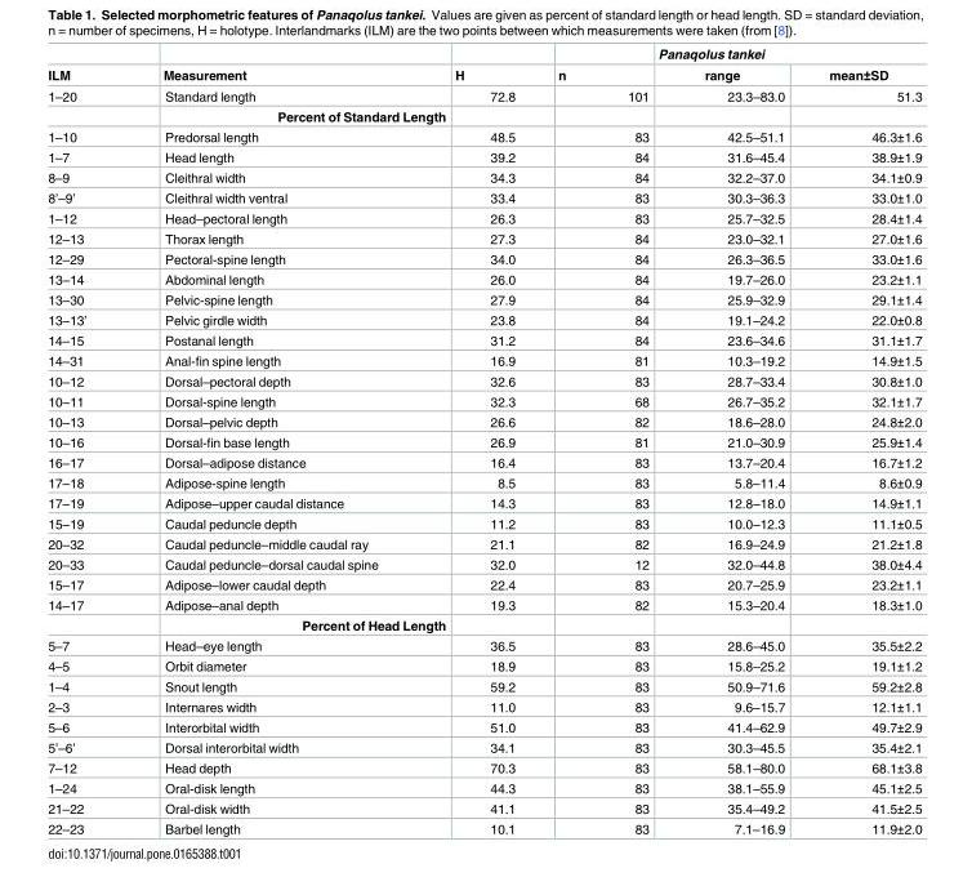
<table><thead><tr><td rowspan="2">ILM</td><td rowspan="2">Measurement</td><td rowspan="2">H</td><td rowspan="2">n</td><td colspan="2">Panaqolus tankei</td></tr><tr><td>range</td><td>mean±SD</td></tr></thead><tbody><tr><td rowspan="2">1–20</td><td>Standard length</td><td>72.8</td><td>101</td><td>23.3–83.0</td><td>51.3</td></tr><tr><td>Percent of Standard Length</td><td></td><td></td><td></td><td></td></tr><tr><td>1–10</td><td>Predorsal length</td><td>48.5</td><td>83</td><td>42.5–51.1</td><td>46.3±1.6</td></tr><tr><td>1–7</td><td>Head length</td><td>39.2</td><td>84</td><td>31.6–45.4</td><td>38.9±1.9</td></tr><tr><td>8–9</td><td>Cleithral width</td><td>34.3</td><td>84</td><td>32.2–37.0</td><td>34.1±0.9</td></tr><tr><td>8’–9’</td><td>Cleithral width ventral</td><td>33.4</td><td>83</td><td>30.3–36.3</td><td>33.0±1.0</td></tr><tr><td>1–12</td><td>Head–pectoral length</td><td>26.3</td><td>83</td><td>25.7–32.5</td><td>28.4±1.4</td></tr><tr><td>12–13</td><td>Thorax length</td><td>27.3</td><td>84</td><td>23.0–32.1</td><td>27.0±1.6</td></tr><tr><td>12–29</td><td>Pectoral-spine length</td><td>34.0</td><td>84</td><td>26.3–36.5</td><td>33.0±1.6</td></tr><tr><td>13–14</td><td>Abdominal length</td><td>26.0</td><td>84</td><td>19.7–26.0</td><td>23.2±1.1</td></tr><tr><td>13–30</td><td>Pelvic-spine length</td><td>27.9</td><td>84</td><td>25.9–32.9</td><td>29.1±1.4</td></tr><tr><td>13–13’</td><td>Pelvic girdle width</td><td>23.8</td><td>84</td><td>19.1–24.2</td><td>22.0±0.8</td></tr><tr><td>14–15</td><td>Postanal length</td><td>31.2</td><td>84</td><td>23.6–34.6</td><td>31.1±1.7</td></tr><tr><td>14–31</td><td>Anal-fin spine length</td><td>16.9</td><td>81</td><td>10.3–19.2</td><td>14.9±1.5</td></tr><tr><td>10–12</td><td>Dorsal–pectoral depth</td><td>32.6</td><td>83</td><td>28.7–33.4</td><td>30.8±1.0</td></tr><tr><td>10–11</td><td>Dorsal-spine length</td><td>32.3</td><td>68</td><td>26.7–35.2</td><td>32.1±1.7</td></tr><tr><td>10–13</td><td>Dorsal–pelvic depth</td><td>26.6</td><td>82</td><td>18.6–28.0</td><td>24.8±2.0</td></tr><tr><td>10–16</td><td>Dorsal-fin base length</td><td>26.9</td><td>81</td><td>21.0–30.9</td><td>25.9±1.4</td></tr><tr><td>16–17</td><td>Dorsal–adipose distance</td><td>16.4</td><td>83</td><td>13.7–20.4</td><td>16.7±1.2</td></tr><tr><td>17–18</td><td>Adipose-spine length</td><td>8.5</td><td>83</td><td>5.8–11.4</td><td>8.6±0.9</td></tr><tr><td>17–19</td><td>Adipose–upper caudal distance</td><td>14.3</td><td>83</td><td>12.8–18.0</td><td>14.9±1.1</td></tr><tr><td>15–19</td><td>Caudal peduncle depth</td><td>11.2</td><td>83</td><td>10.0–12.3</td><td>11.1±0.5</td></tr><tr><td>20–32</td><td>Caudal peduncle–middle caudal ray</td><td>21.1</td><td>82</td><td>16.9–24.9</td><td>21.2±1.8</td></tr><tr><td>20–33</td><td>Caudal peduncle–dorsal caudal spine</td><td>32.0</td><td>12</td><td>32.0–44.8</td><td>38.0±4.4</td></tr><tr><td>15–17</td><td>Adipose–lower caudal depth</td><td>22.4</td><td>83</td><td>20.7–25.9</td><td>23.2±1.1</td></tr><tr><td rowspan="2">14–17</td><td>Adipose–anal depth</td><td>19.3</td><td>82</td><td>15.3–20.4</td><td>18.3±1.0</td></tr><tr><td>Percent of Head Length</td><td></td><td></td><td></td><td></td></tr><tr><td>5–7</td><td>Head–eye length</td><td>36.5</td><td>83</td><td>28.6–45.0</td><td>35.5±2.2</td></tr><tr><td>4–5</td><td>Orbit diameter</td><td>18.9</td><td>83</td><td>15.8–25.2</td><td>19.1±1.2</td></tr><tr><td>1–4</td><td>Snout length</td><td>59.2</td><td>83</td><td>50.9–71.6</td><td>59.2±2.8</td></tr><tr><td>2–3</td><td>Internares width</td><td>11.0</td><td>83</td><td>9.6–15.7</td><td>12.1±1.1</td></tr><tr><td>5–6</td><td>Interorbital width</td><td>51.0</td><td>83</td><td>41.4–62.9</td><td>49.7±2.9</td></tr><tr><td>5’–6’</td><td>Dorsal interorbital width</td><td>34.1</td><td>83</td><td>30.3–45.5</td><td>35.4±2.1</td></tr><tr><td>7–12</td><td>Head depth</td><td>70.3</td><td>83</td><td>58.1–80.0</td><td>68.1±3.8</td></tr><tr><td>1–24</td><td>Oral-disk length</td><td>44.3</td><td>83</td><td>38.1–55.9</td><td>45.1±2.5</td></tr><tr><td>21–22</td><td>Oral-disk width</td><td>41.1</td><td>83</td><td>35.4–49.2</td><td>41.5±2.5</td></tr><tr><td>22–23</td><td>Barbel length</td><td>10.1</td><td>83</td><td>7.1–16.9</td><td>11.9±2.0</td></tr></tbody></table>